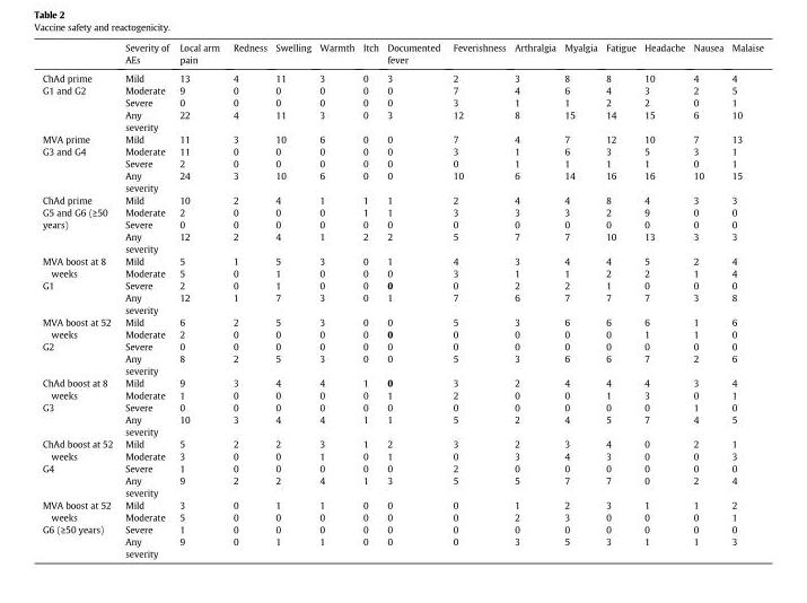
<table><thead><tr><td></td><td>Severity of AEs</td><td>Local arm pain</td><td>Redness</td><td>Swelling</td><td>Warmth</td><td>Itch</td><td>Documented fever</td><td>Feverishness</td><td>Arthralgia</td><td>Myalgia</td><td>Fatigue</td><td>Headache</td><td>Nausea</td><td>Malaise</td></tr></thead><tbody><tr><td rowspan="4">ChAd prime G1 and G2</td><td>Mild</td><td>13</td><td>4</td><td>11</td><td>3</td><td>0</td><td>3</td><td>2</td><td>3</td><td>8</td><td>8</td><td>10</td><td>4</td><td>4</td></tr><tr><td>Moderate</td><td>9</td><td>0</td><td>0</td><td>0</td><td>0</td><td>0</td><td>7</td><td>4</td><td>6</td><td>4</td><td>3</td><td>2</td><td>5</td></tr><tr><td>Severe</td><td>0</td><td>0</td><td>0</td><td>0</td><td>0</td><td>0</td><td>3</td><td>1</td><td>1</td><td>2</td><td>2</td><td>0</td><td>1</td></tr><tr><td>Any severity</td><td>22</td><td>4</td><td>11</td><td>3</td><td>0</td><td>3</td><td>12</td><td>8</td><td>15</td><td>14</td><td>15</td><td>6</td><td>10</td></tr><tr><td rowspan="4">MVA prime G3 and G4</td><td>Mild</td><td>11</td><td>3</td><td>10</td><td>6</td><td>0</td><td>0</td><td>7</td><td>4</td><td>7</td><td>12</td><td>10</td><td>7</td><td>13</td></tr><tr><td>Moderate</td><td>11</td><td>0</td><td>0</td><td>0</td><td>0</td><td>0</td><td>3</td><td>1</td><td>6</td><td>3</td><td>5</td><td>3</td><td>1</td></tr><tr><td>Severe</td><td>2</td><td>0</td><td>0</td><td>0</td><td>0</td><td>0</td><td>0</td><td>1</td><td>1</td><td>1</td><td>1</td><td>0</td><td>1</td></tr><tr><td>Any severity</td><td>24</td><td>3</td><td>10</td><td>6</td><td>0</td><td>0</td><td>10</td><td>6</td><td>14</td><td>16</td><td>16</td><td>10</td><td>15</td></tr><tr><td rowspan="4">ChAd prime G5 and G6 (≥50 years)</td><td>Mild</td><td>10</td><td>2</td><td>4</td><td>1</td><td>1</td><td>1</td><td>2</td><td>4</td><td>4</td><td>8</td><td>4</td><td>3</td><td>3</td></tr><tr><td>Moderate</td><td>2</td><td>0</td><td>0</td><td>0</td><td>1</td><td>1</td><td>3</td><td>3</td><td>3</td><td>2</td><td>9</td><td>0</td><td>0</td></tr><tr><td>Severe</td><td>0</td><td>0</td><td>0</td><td>0</td><td>0</td><td>0</td><td>0</td><td>0</td><td>0</td><td>0</td><td>0</td><td>0</td><td>0</td></tr><tr><td>Any severity</td><td>12</td><td>2</td><td>4</td><td>1</td><td>2</td><td>2</td><td>5</td><td>7</td><td>7</td><td>10</td><td>13</td><td>3</td><td>3</td></tr><tr><td rowspan="4">MVA boost at 8 weeks G1</td><td>Mild</td><td>5</td><td>1</td><td>5</td><td>3</td><td>0</td><td>1</td><td>4</td><td>3</td><td>4</td><td>4</td><td>5</td><td>2</td><td>4</td></tr><tr><td>Moderate</td><td>5</td><td>0</td><td>1</td><td>0</td><td>0</td><td>0</td><td>3</td><td>1</td><td>1</td><td>2</td><td>2</td><td>1</td><td>4</td></tr><tr><td>Severe</td><td>2</td><td>0</td><td>1</td><td>0</td><td>0</td><td>0</td><td>0</td><td>2</td><td>2</td><td>1</td><td>0</td><td>0</td><td>0</td></tr><tr><td>Any severity</td><td>12</td><td>1</td><td>7</td><td>3</td><td>0</td><td>1</td><td>7</td><td>6</td><td>7</td><td>7</td><td>7</td><td>3</td><td>8</td></tr><tr><td rowspan="4">MVA boost at 52 weeks G2</td><td>Mild</td><td>6</td><td>2</td><td>5</td><td>3</td><td>0</td><td>0</td><td>5</td><td>3</td><td>6</td><td>6</td><td>6</td><td>1</td><td>6</td></tr><tr><td>Moderate</td><td>2</td><td>0</td><td>0</td><td>0</td><td>0</td><td>0</td><td>0</td><td>0</td><td>0</td><td>0</td><td>1</td><td>1</td><td>0</td></tr><tr><td>Severe</td><td>0</td><td>0</td><td>0</td><td>0</td><td>0</td><td>0</td><td>0</td><td>0</td><td>0</td><td>0</td><td>0</td><td>0</td><td>0</td></tr><tr><td>Any severity</td><td>8</td><td>2</td><td>5</td><td>3</td><td>0</td><td>0</td><td>5</td><td>3</td><td>6</td><td>6</td><td>7</td><td>2</td><td>6</td></tr><tr><td rowspan="4">ChAd boost at 8 weeks G3</td><td>Mild</td><td>9</td><td>3</td><td>4</td><td>4</td><td>1</td><td>0</td><td>3</td><td>2</td><td>4</td><td>4</td><td>4</td><td>3</td><td>4</td></tr><tr><td>Moderate</td><td>1</td><td>0</td><td>0</td><td>0</td><td>0</td><td>1</td><td>2</td><td>0</td><td>0</td><td>1</td><td>3</td><td>0</td><td>1</td></tr><tr><td>Severe</td><td>0</td><td>0</td><td>0</td><td>0</td><td>0</td><td>0</td><td>0</td><td>0</td><td>0</td><td>0</td><td>0</td><td>1</td><td>0</td></tr><tr><td>Any severity</td><td>10</td><td>3</td><td>4</td><td>4</td><td>1</td><td>1</td><td>5</td><td>2</td><td>4</td><td>5</td><td>7</td><td>4</td><td>5</td></tr><tr><td rowspan="4">ChAd boost at 52 weeks G4</td><td>Mild</td><td>5</td><td>2</td><td>2</td><td>3</td><td>1</td><td>2</td><td>3</td><td>2</td><td>3</td><td>4</td><td>0</td><td>2</td><td>1</td></tr><tr><td>Moderate</td><td>3</td><td>0</td><td>0</td><td>1</td><td>0</td><td>1</td><td>0</td><td>3</td><td>4</td><td>3</td><td>0</td><td>0</td><td>3</td></tr><tr><td>Severe</td><td>1</td><td>0</td><td>0</td><td>0</td><td>0</td><td>0</td><td>2</td><td>0</td><td>0</td><td>0</td><td>0</td><td>0</td><td>0</td></tr><tr><td>Any severity</td><td>9</td><td>2</td><td>2</td><td>4</td><td>1</td><td>3</td><td>5</td><td>5</td><td>7</td><td>7</td><td>0</td><td>2</td><td>4</td></tr><tr><td rowspan="4">MVA boost at 52 weeks G6 (≥50 years)</td><td>Mild</td><td>3</td><td>0</td><td>1</td><td>1</td><td>0</td><td>0</td><td>0</td><td>1</td><td>2</td><td>3</td><td>1</td><td>1</td><td>2</td></tr><tr><td>Moderate</td><td>5</td><td>0</td><td>0</td><td>0</td><td>0</td><td>0</td><td>0</td><td>2</td><td>3</td><td>0</td><td>0</td><td>0</td><td>1</td></tr><tr><td>Severe</td><td>1</td><td>0</td><td>0</td><td>0</td><td>0</td><td>0</td><td>0</td><td>0</td><td>0</td><td>0</td><td>0</td><td>0</td><td>0</td></tr><tr><td>Any severity</td><td>9</td><td>0</td><td>1</td><td>1</td><td>0</td><td>0</td><td>0</td><td>3</td><td>5</td><td>3</td><td>1</td><td>1</td><td>3</td></tr></tbody></table>